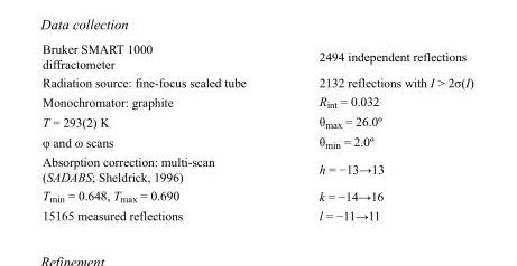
<table><tbody><tr><td>Bruker SMART 1000 diffractometer</td><td>2494 independent reflections</td></tr><tr><td>Radiation source: fine-focus sealed tube</td><td>2132 reflections with I &gt; 2σ(I)</td></tr><tr><td>Monochromator: graphite</td><td>R<sub>int</sub> = 0.032</td></tr><tr><td>T = 293(2) K</td><td>θ<sub>max</sub> = 26.0º</td></tr><tr><td>φ and ω scans</td><td>θ<sub>min</sub> = 2.0º</td></tr><tr><td>Absorption correction: multi-scan (SADABS; Sheldrick, 1996)</td><td>h = −13→13</td></tr><tr><td>T<sub>min</sub> = 0.648, T<sub>max</sub> = 0.690</td><td>k = −14→16</td></tr><tr><td>15165 measured reflections</td><td>l = −11→11</td></tr></tbody></table>